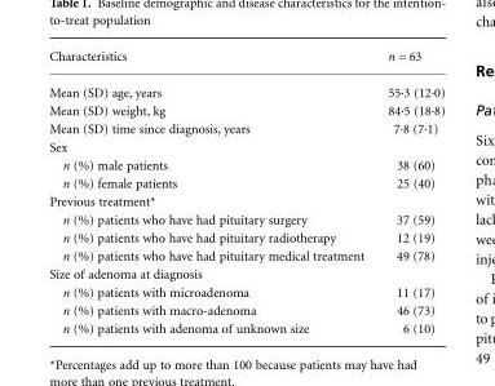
<table><thead><tr><td>Characteristics</td><td>n = 63</td></tr></thead><tbody><tr><td>Mean (SD) age, years</td><td>55·3 (12·0)</td></tr><tr><td>Mean (SD) weight, kg</td><td>84·5 (18·8)</td></tr><tr><td>Mean (SD) time since diagnosis, years</td><td>7·8 (7·1)</td></tr><tr><td colspan="2">Sex</td></tr><tr><td>n (%) male patients</td><td>38 (60)</td></tr><tr><td>n (%) female patients</td><td>25 (40)</td></tr><tr><td colspan="2">Previous treatment*</td></tr><tr><td>n (%) patients who have had pituitary surgery</td><td>37 (59)</td></tr><tr><td>n (%) patients who have had pituitary radiotherapy</td><td>12 (19)</td></tr><tr><td>n (%) patients who have had pituitary medical treatment</td><td>49 (78)</td></tr><tr><td colspan="2">Size of adenoma at diagnosis</td></tr><tr><td>n (%) patients with microadenoma</td><td>11 (17)</td></tr><tr><td>n (%) patients with macro-adenoma</td><td>46 (73)</td></tr><tr><td>n (%) patients with adenoma of unknown size</td><td>6 (10)</td></tr></tbody></table>